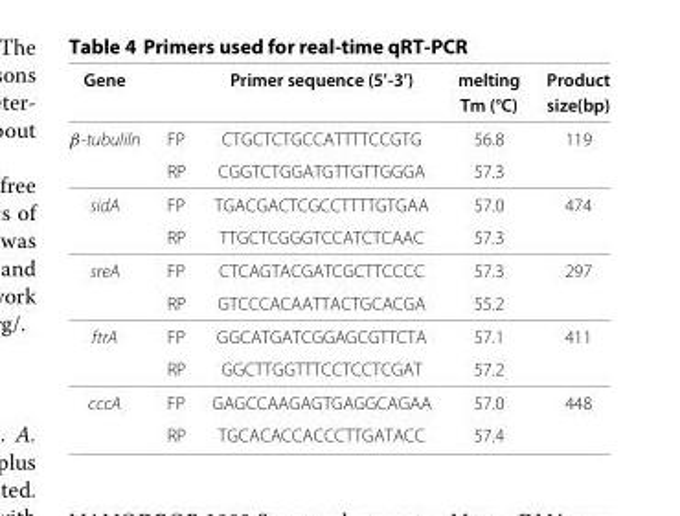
<table><thead><tr><td rowspan="2">Gene</td><td rowspan="2"></td><td rowspan="2">Primer sequence (5’-3’)</td><td rowspan="2">melting Tm (°C)</td><td rowspan="2">Product size(bp)</td></tr><tr></tr></thead><tbody><tr><td rowspan="2">β-tubuliln</td><td>FP</td><td>CTGCTCTGCCATTTTCCGTG</td><td>56.8</td><td>119</td></tr><tr><td>RP</td><td>CGGTCTGGATGTTGTTGGGA</td><td>57.3</td><td></td></tr><tr><td rowspan="2">sidA</td><td>FP</td><td>TGACGACTCGCCTTTTGTGAA</td><td>57.0</td><td>474</td></tr><tr><td>RP</td><td>TTGCTCGGGTCCATCTCAAC</td><td>57.3</td><td></td></tr><tr><td rowspan="2">sreA</td><td>FP</td><td>CTCAGTACGATCGCTTCCCC</td><td>57.3</td><td>297</td></tr><tr><td>RP</td><td>GTCCCACAATTACTGCACGA</td><td>55.2</td><td></td></tr><tr><td rowspan="2">ftrA</td><td>FP</td><td>GGCATGATCGGAGCGTTCTA</td><td>57.1</td><td>411</td></tr><tr><td>RP</td><td>GGCTTGGTTTCCTCCTCGAT</td><td>57.2</td><td></td></tr><tr><td rowspan="2">cccA</td><td>FP</td><td>GAGCCAAGAGTGAGGCAGAA</td><td>57.0</td><td>448</td></tr><tr><td>RP</td><td>TGCACACCACCCTTGATACC</td><td>57.4</td><td></td></tr></tbody></table>